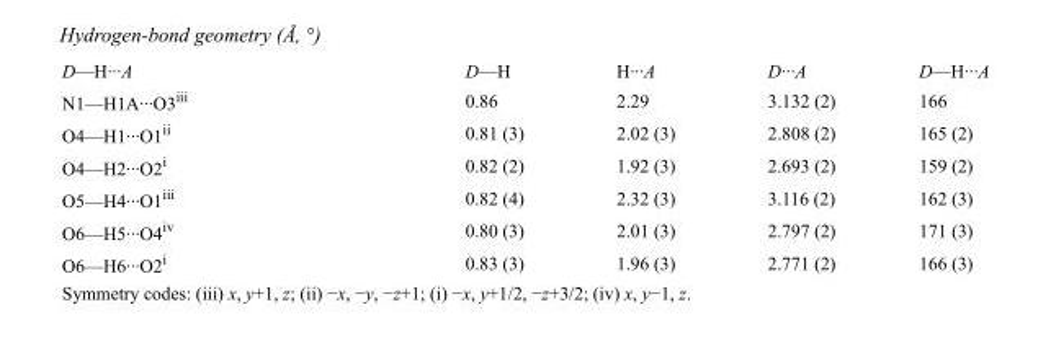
<table><tbody><tr><td>D—H···A</td><td>D—H</td><td>H···A</td><td>D···A</td><td>D—H···A</td></tr><tr><td>N1—H1A···O3<sup>iii</sup></td><td>0.86</td><td>2.29</td><td>3.132 (2)</td><td>166</td></tr><tr><td>O4—H1···O1<sup>ii</sup></td><td>0.81 (3)</td><td>2.02 (3)</td><td>2.808 (2)</td><td>165 (2)</td></tr><tr><td>O4—H2···O2<sup>i</sup></td><td>0.82 (2)</td><td>1.92 (3)</td><td>2.693 (2)</td><td>159 (2)</td></tr><tr><td>O5—H4···O1<sup>iii</sup></td><td>0.82 (4)</td><td>2.32 (3)</td><td>3.116 (2)</td><td>162 (3)</td></tr><tr><td>O6—H5···O4<sup>iv</sup></td><td>0.80 (3)</td><td>2.01 (3)</td><td>2.797 (2)</td><td>171 (3)</td></tr><tr><td>O6—H6···O2<sup>i</sup></td><td>0.83 (3)</td><td>1.96 (3)</td><td>2.771 (2)</td><td>166 (3)</td></tr></tbody></table>